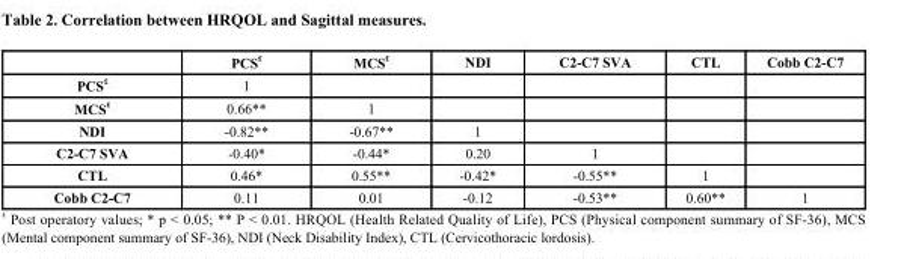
<table><thead><tr><td></td><td>PCS <sup>£</sup></td><td>MCS <sup>£</sup></td><td>NDI</td><td>C2-C7 SVA</td><td>CTL</td><td>Cobb C2-C7</td></tr></thead><tbody><tr><td>PCS <sup>£</sup></td><td>1</td><td></td><td></td><td></td><td></td><td></td></tr><tr><td>MCS <sup>£</sup></td><td>0.66**</td><td>1</td><td></td><td></td><td></td><td></td></tr><tr><td>NDI</td><td>-0.82**</td><td>-0.67**</td><td>1</td><td></td><td></td><td></td></tr><tr><td>C2-C7 SVA</td><td>-0.40*</td><td>-0.44*</td><td>0.20</td><td>1</td><td></td><td></td></tr><tr><td>CTL</td><td>0.46*</td><td>0.55**</td><td>-0.42*</td><td>-0.55**</td><td>1</td><td></td></tr><tr><td>Cobb C2-C7</td><td>0.11</td><td>0.01</td><td>-0.12</td><td>-0.53**</td><td>0.60**</td><td>1</td></tr></tbody></table>